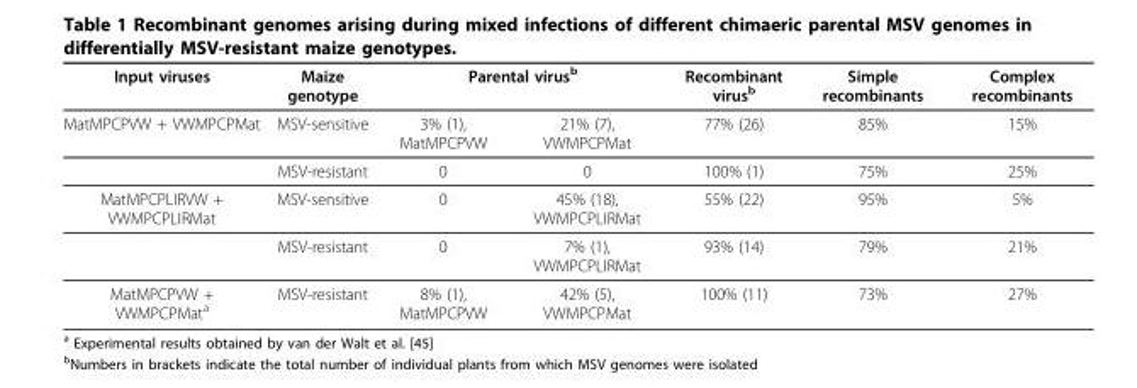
<table><thead><tr><td rowspan="2">Input viruses MatMPCPVW + VWMPCPMat</td><td rowspan="2">Maize genotype MSV-sensitive</td><td colspan="2">Parental virusb</td><td rowspan="2">Recombinant virusb 77% (26)</td><td rowspan="2">Simple recombinants 85%</td><td rowspan="2">Complex recombinants 15%</td></tr><tr><td>3% (1), MatMPCPVW</td><td>21% (7), VWMPCPMat</td></tr></thead><tbody><tr><td></td><td>MSV-resistant</td><td>0</td><td>0</td><td>100% (1)</td><td>75%</td><td>25%</td></tr><tr><td rowspan="2">MatMPCPLIRVW + VWMPCPLIRMat</td><td>MSV-sensitive</td><td>0</td><td>45% (18), VWMPCPLIRMat</td><td>55% (22)</td><td>95%</td><td>5%</td></tr><tr><td>MSV-resistant</td><td>0</td><td>7% (1), VWMPCPLIRMat</td><td>93% (14)</td><td>79%</td><td>21%</td></tr><tr><td>MatMPCPVW + VWMPCPMat<sup>a</sup></td><td>MSV-resistant</td><td>8% (1), MatMPCPVW</td><td>42% (5), VWMPCPMat</td><td>100% (11)</td><td>73%</td><td>27%</td></tr></tbody></table>